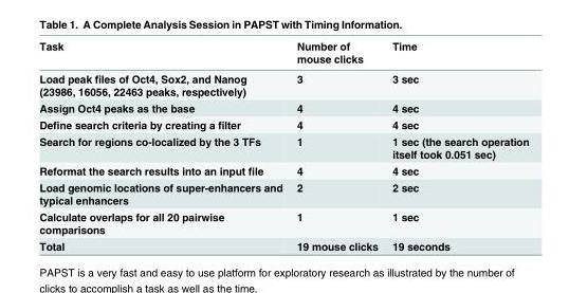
<table><thead><tr><td>Task</td><td>Number of mouse clicks</td><td>Time</td></tr></thead><tbody><tr><td>Load peak files of Oct4, Sox2, and Nanog (23986, 16056, 22463 peaks, respectively)</td><td>3</td><td>3 sec</td></tr><tr><td>Assign Oct4 peaks as the base</td><td>4</td><td>4 sec</td></tr><tr><td>Define search criteria by creating a filter</td><td>4</td><td>4 sec</td></tr><tr><td>Search for regions co-localized by the 3 TFs</td><td>1</td><td>1 sec (the search operation itself took 0.051 sec)</td></tr><tr><td>Reformat the search results into an input file</td><td>4</td><td>4 sec</td></tr><tr><td>Load genomic locations of super-enhancers and typical enhancers</td><td>2</td><td>2 sec</td></tr><tr><td>Calculate overlaps for all 20 pairwise comparisons</td><td>1</td><td>1 sec</td></tr><tr><td>Total</td><td>19 mouse clicks</td><td>19 seconds</td></tr></tbody></table>